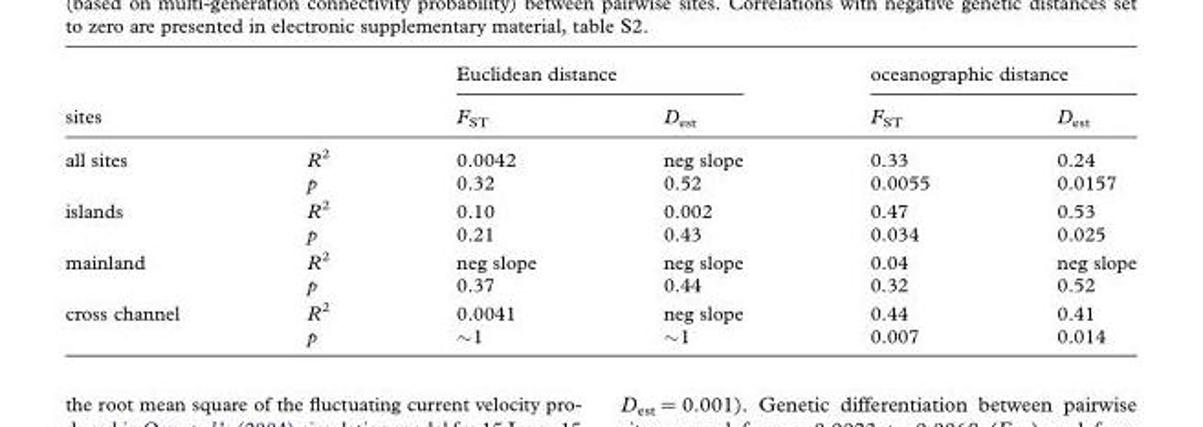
<table><thead><tr><td rowspan="2">sites</td><td rowspan="2"></td><td colspan="2">Euclidean distance</td><td colspan="2">oceanographic distance</td></tr><tr><td>F<sub>ST</sub></td><td>D<sub>est</sub></td><td>F<sub>ST</sub></td><td>D<sub>est</sub></td></tr></thead><tbody><tr><td rowspan="2">all sites</td><td>R<sup>2</sup></td><td>0.0042</td><td>neg slope</td><td>0.33</td><td>0.24</td></tr><tr><td>p</td><td>0.32</td><td>0.52</td><td>0.0055</td><td>0.0157</td></tr><tr><td rowspan="2">islands</td><td>R<sup>2</sup></td><td>0.10</td><td>0.002</td><td>0.47</td><td>0.53</td></tr><tr><td>p</td><td>0.21</td><td>0.43</td><td>0.034</td><td>0.025</td></tr><tr><td rowspan="2">mainland</td><td>R<sup>2</sup></td><td>neg slope</td><td>neg slope</td><td>0.04</td><td>neg slope</td></tr><tr><td>p</td><td>0.37</td><td>0.44</td><td>0.32</td><td>0.52</td></tr><tr><td rowspan="2">cross channel</td><td>R<sup>2</sup></td><td>0.0041</td><td>neg slope</td><td>0.44</td><td>0.41</td></tr><tr><td>p</td><td>∼1</td><td>∼1</td><td>0.007</td><td>0.014</td></tr></tbody></table>